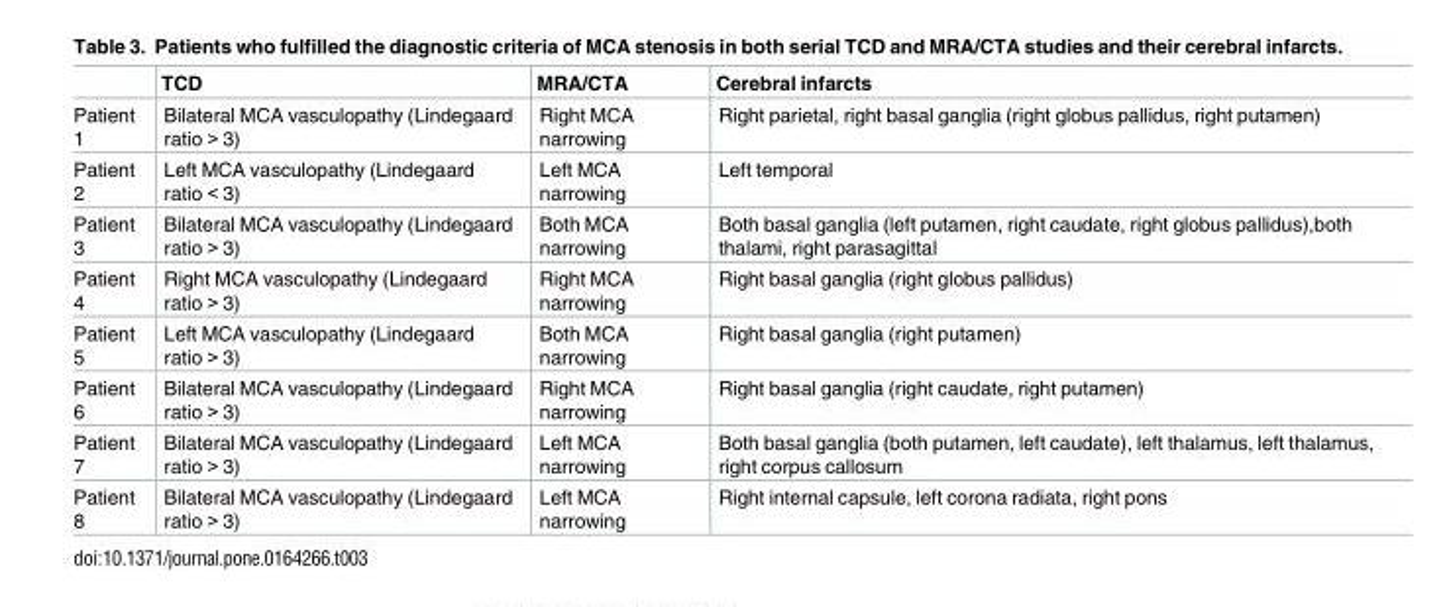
<table><thead><tr><td></td><td>TCD</td><td>MRA/CTA</td><td>Cerebral infarcts</td></tr></thead><tbody><tr><td>Patient 1</td><td>Bilateral MCA vasculopathy (Lindegaard ratio &gt; 3)</td><td>Right MCA narrowing</td><td>Right parietal, right basal ganglia (right globus pallidus, right putamen)</td></tr><tr><td>Patient 2</td><td>Left MCA vasculopathy (Lindegaard ratio &lt; 3)</td><td>Left MCA narrowing</td><td>Left temporal</td></tr><tr><td>Patient 3</td><td>Bilateral MCA vasculopathy (Lindegaard ratio &gt; 3)</td><td>Both MCA narrowing</td><td>Both basal ganglia (left putamen, right caudate, right globus pallidus),both thalami, right parasagittal</td></tr><tr><td>Patient 4</td><td>Right MCA vasculopathy (Lindegaard ratio &gt; 3)</td><td>Right MCA narrowing</td><td>Right basal ganglia (right globus pallidus)</td></tr><tr><td>Patient 5</td><td>Left MCA vasculopathy (Lindegaard ratio &gt; 3)</td><td>Both MCA narrowing</td><td>Right basal ganglia (right putamen)</td></tr><tr><td>Patient 6</td><td>Bilateral MCA vasculopathy (Lindegaard ratio &gt; 3)</td><td>Right MCA narrowing</td><td>Right basal ganglia (right caudate, right putamen)</td></tr><tr><td>Patient 7</td><td>Bilateral MCA vasculopathy (Lindegaard ratio &gt; 3)</td><td>Left MCA narrowing</td><td>Both basal ganglia (both putamen, left caudate), left thalamus, left thalamus, right corpus callosum</td></tr><tr><td>Patient 8</td><td>Bilateral MCA vasculopathy (Lindegaard ratio &gt; 3)</td><td>Left MCA narrowing</td><td>Right internal capsule, left corona radiata, right pons</td></tr></tbody></table>